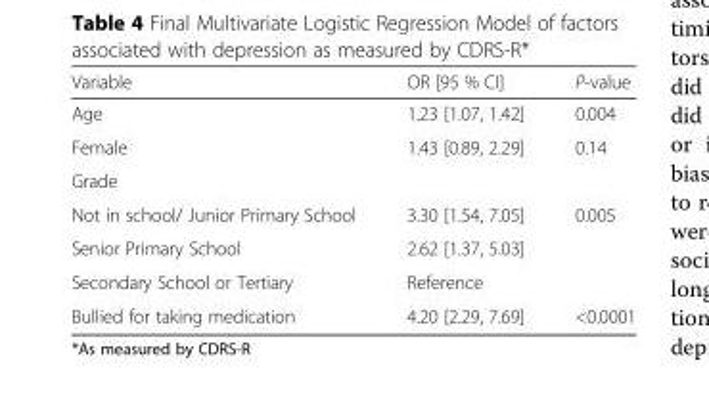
<table><thead><tr><td>Variable</td><td>OR [95 % CI]</td><td>P-value</td></tr></thead><tbody><tr><td>Age</td><td>1.23 [1.07, 1.42]</td><td>0.004</td></tr><tr><td>Female</td><td>1.43 [0.89, 2.29]</td><td>0.14</td></tr><tr><td colspan="3">Grade</td></tr><tr><td>Not in school/ Junior Primary School</td><td>3.30 [1.54, 7.05]</td><td rowspan="3">0.005</td></tr><tr><td>Senior Primary School</td><td>2.62 [1.37, 5.03]</td></tr><tr><td>Secondary School or Tertiary</td><td>Reference</td></tr><tr><td>Bullied for taking medication</td><td>4.20 [2.29, 7.69]</td><td>&lt;0.0001</td></tr></tbody></table>